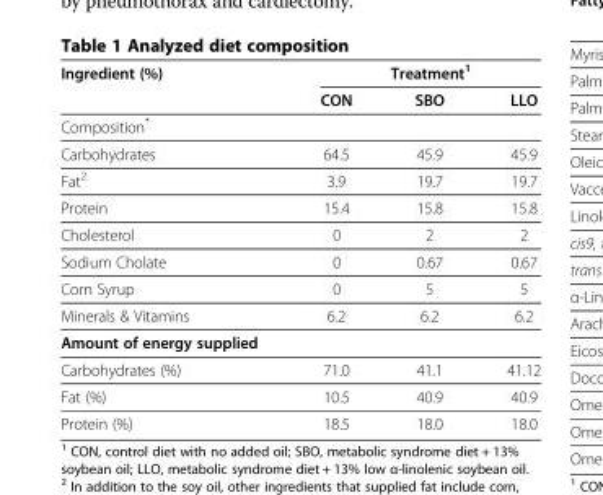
<table><thead><tr><td rowspan="2">Ingredient (%)</td><td colspan="3">Treatment<sup>1</sup></td></tr><tr><td>CON</td><td>SBO</td><td>LLO</td></tr></thead><tbody><tr><td colspan="4">Composition*</td></tr><tr><td>Carbohydrates</td><td>64.5</td><td>45.9</td><td>45.9</td></tr><tr><td>Fat<sup>2</sup></td><td>3.9</td><td>19.7</td><td>19.7</td></tr><tr><td>Protein</td><td>15.4</td><td>15.8</td><td>15.8</td></tr><tr><td>Cholesterol</td><td>0</td><td>2</td><td>2</td></tr><tr><td>Sodium Cholate</td><td>0</td><td>0.67</td><td>0.67</td></tr><tr><td>Corn Syrup</td><td>0</td><td>5</td><td>5</td></tr><tr><td>Minerals &amp; Vitamins</td><td>6.2</td><td>6.2</td><td>6.2</td></tr><tr><td colspan="4">Amount of energy supplied</td></tr><tr><td>Carbohydrates (%)</td><td>71.0</td><td>41.1</td><td>41.12</td></tr><tr><td>Fat (%)</td><td>10.5</td><td>40.9</td><td>40.9</td></tr><tr><td>Protein (%)</td><td>18.5</td><td>18.0</td><td>18.0</td></tr></tbody></table>